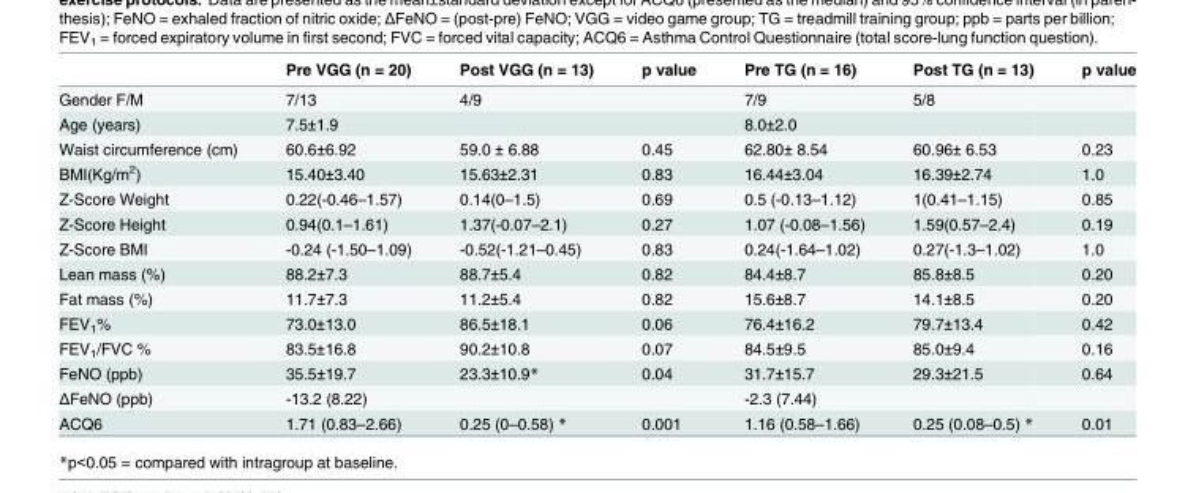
<table><thead><tr><td></td><td>Pre VGG (n = 20)</td><td>Post VGG (n = 13)</td><td>p value</td><td>Pre TG (n = 16)</td><td>Post TG (n = 13)</td><td>p value</td></tr></thead><tbody><tr><td>Gender F/M</td><td>7/13</td><td>4/9</td><td></td><td>7/9</td><td>5/8</td><td></td></tr><tr><td>Age (years)</td><td>7.5±1.9</td><td></td><td></td><td>8.0±2.0</td><td></td><td></td></tr><tr><td>Waist circumference (cm)</td><td>60.6±6.92</td><td>59.0 ± 6.88</td><td>0.45</td><td>62.80± 8.54</td><td>60.96± 6.53</td><td>0.23</td></tr><tr><td>BMI(Kg/m<sup>2</sup>)</td><td>15.40±3.40</td><td>15.63±2.31</td><td>0.83</td><td>16.44±3.04</td><td>16.39±2.74</td><td>1.0</td></tr><tr><td>Z-Score Weight</td><td>0.22(-0.46–1.57)</td><td>0.14(0–1.5)</td><td>0.69</td><td>0.5 (-0.13–1.12)</td><td>1(0.41–1.15)</td><td>0.85</td></tr><tr><td>Z-Score Height</td><td>0.94(0.1–1.61)</td><td>1.37(-0.07–2.1)</td><td>0.27</td><td>1.07 (-0.08–1.56)</td><td>1.59(0.57–2.4)</td><td>0.19</td></tr><tr><td>Z-Score BMI</td><td>-0.24 (-1.50–1.09)</td><td>-0.52(-1.21–0.45)</td><td>0.83</td><td>0.24(-1.64–1.02)</td><td>0.27(-1.3–1.02)</td><td>1.0</td></tr><tr><td>Lean mass (%)</td><td>88.2±7.3</td><td>88.7±5.4</td><td>0.82</td><td>84.4±8.7</td><td>85.8±8.5</td><td>0.20</td></tr><tr><td>Fat mass (%)</td><td>11.7±7.3</td><td>11.2±5.4</td><td>0.82</td><td>15.6±8.7</td><td>14.1±8.5</td><td>0.20</td></tr><tr><td>FEV<sub>1</sub>%</td><td>73.0±13.0</td><td>86.5±18.1</td><td>0.06</td><td>76.4±16.2</td><td>79.7±13.4</td><td>0.42</td></tr><tr><td>FEV<sub>1</sub>/FVC %</td><td>83.5±16.8</td><td>90.2±10.8</td><td>0.07</td><td>84.5±9.5</td><td>85.0±9.4</td><td>0.16</td></tr><tr><td>FeNO (ppb)</td><td>35.5±19.7</td><td>23.3±10.9*</td><td>0.04</td><td>31.7±15.7</td><td>29.3±21.5</td><td>0.64</td></tr><tr><td>ΔFeNO (ppb)</td><td>-13.2 (8.22)</td><td></td><td></td><td>-2.3 (7.44)</td><td></td><td></td></tr><tr><td>ACQ6</td><td>1.71 (0.83–2.66)</td><td>0.25 (0–0.58) *</td><td>0.001</td><td>1.16 (0.58–1.66)</td><td>0.25 (0.08–0.5) *</td><td>0.01</td></tr></tbody></table>